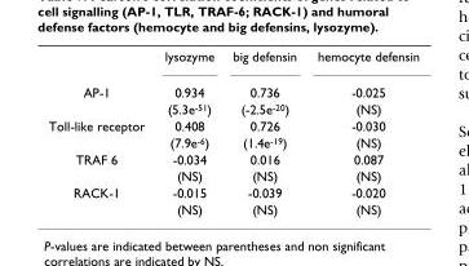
<table><thead><tr><td></td><td>lysozyme</td><td>big defensin</td><td>hemocyte defensin</td></tr></thead><tbody><tr><td rowspan="2">AP-1</td><td>0.934</td><td>0.736</td><td>-0.025</td></tr><tr><td>(5.3e<sup>-51</sup>)</td><td>(-2.5e<sup>-20</sup>)</td><td>(NS)</td></tr><tr><td rowspan="2">Toll-like receptor</td><td>0.408</td><td>0.726</td><td>-0.030</td></tr><tr><td>(7.9e<sup>-6</sup>)</td><td>(1.4e<sup>-19</sup>)</td><td>(NS)</td></tr><tr><td rowspan="2">TRAF 6</td><td>-0.034</td><td>0.016</td><td>0.087</td></tr><tr><td>(NS)</td><td>(NS)</td><td>(NS)</td></tr><tr><td rowspan="2">RACK-1</td><td>-0.015</td><td>-0.039</td><td>-0.020</td></tr><tr><td>(NS)</td><td>(NS)</td><td>(NS)</td></tr></tbody></table>